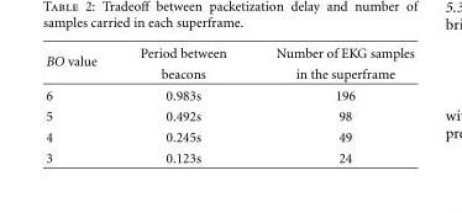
<table><thead><tr><td rowspan="2">BO value</td><td rowspan="2">Period between beacons</td><td rowspan="2">Number of EKG samples in the superframe</td></tr><tr></tr></thead><tbody><tr><td>6</td><td>0.983s</td><td>196</td></tr><tr><td>5</td><td>0.492s</td><td>98</td></tr><tr><td>4</td><td>0.245s</td><td>49</td></tr><tr><td>3</td><td>0.123s</td><td>24</td></tr></tbody></table>